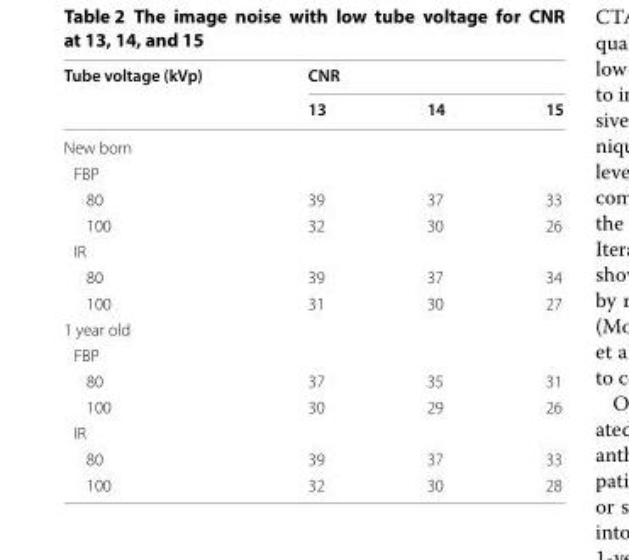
<table><thead><tr><td rowspan="2">Tube voltage (kVp)</td><td colspan="3">CNR</td></tr><tr><td>13</td><td>14</td><td>15</td></tr></thead><tbody><tr><td colspan="4">New born</td></tr><tr><td colspan="4">FBP</td></tr><tr><td>80</td><td>39</td><td>37</td><td>33</td></tr><tr><td>100</td><td>32</td><td>30</td><td>26</td></tr><tr><td colspan="4">IR</td></tr><tr><td>80</td><td>39</td><td>37</td><td>34</td></tr><tr><td>100</td><td>31</td><td>30</td><td>27</td></tr><tr><td colspan="4">1 year old</td></tr><tr><td colspan="4">FBP</td></tr><tr><td>80</td><td>37</td><td>35</td><td>31</td></tr><tr><td>100</td><td>30</td><td>29</td><td>26</td></tr><tr><td colspan="4">IR</td></tr><tr><td>80</td><td>39</td><td>37</td><td>33</td></tr><tr><td>100</td><td>32</td><td>30</td><td>28</td></tr></tbody></table>